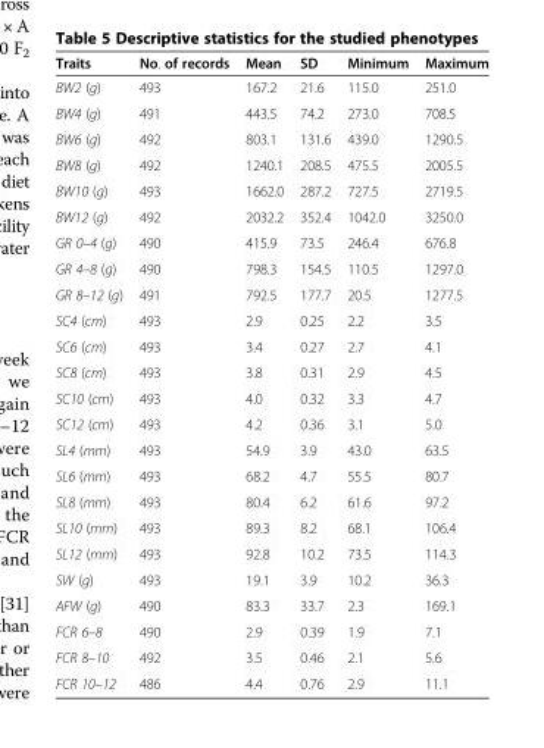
<table><thead><tr><td>Traits</td><td>No. of records</td><td>Mean</td><td>SD</td><td>Minimum</td><td>Maximum</td></tr></thead><tbody><tr><td>BW2 (g)</td><td>493</td><td>167.2</td><td>21.6</td><td>115.0</td><td>251.0</td></tr><tr><td>BW4 (g)</td><td>491</td><td>443.5</td><td>74.2</td><td>273.0</td><td>708.5</td></tr><tr><td>BW6 (g)</td><td>492</td><td>803.1</td><td>131.6</td><td>439.0</td><td>1290.5</td></tr><tr><td>BW8 (g)</td><td>492</td><td>1240.1</td><td>208.5</td><td>475.5</td><td>2005.5</td></tr><tr><td>BW10 (g)</td><td>493</td><td>1662.0</td><td>287.2</td><td>727.5</td><td>2719.5</td></tr><tr><td>BW12 (g)</td><td>492</td><td>2032.2</td><td>352.4</td><td>1042.0</td><td>3250.0</td></tr><tr><td>GR 0–4 (g)</td><td>490</td><td>415.9</td><td>73.5</td><td>246.4</td><td>676.8</td></tr><tr><td>GR 4–8 (g)</td><td>490</td><td>798.3</td><td>154.5</td><td>110.5</td><td>1297.0</td></tr><tr><td>GR 8–12 (g)</td><td>491</td><td>792.5</td><td>177.7</td><td>20.5</td><td>1277.5</td></tr><tr><td>SC4 (cm)</td><td>493</td><td>2.9</td><td>0.25</td><td>2.2</td><td>3.5</td></tr><tr><td>SC6 (cm)</td><td>493</td><td>3.4</td><td>0.27</td><td>2.7</td><td>4.1</td></tr><tr><td>SC8 (cm)</td><td>493</td><td>3.8</td><td>0.31</td><td>2.9</td><td>4.5</td></tr><tr><td>SC10 (cm)</td><td>493</td><td>4.0</td><td>0.32</td><td>3.3</td><td>4.7</td></tr><tr><td>SC12 (cm)</td><td>493</td><td>4.2</td><td>0.36</td><td>3.1</td><td>5.0</td></tr><tr><td>SL4 (mm)</td><td>493</td><td>54.9</td><td>3.9</td><td>43.0</td><td>63.5</td></tr><tr><td>SL6 (mm)</td><td>493</td><td>68.2</td><td>4.7</td><td>55.5</td><td>80.7</td></tr><tr><td>SL8 (mm)</td><td>493</td><td>80.4</td><td>6.2</td><td>61.6</td><td>97.2</td></tr><tr><td>SL10 (mm)</td><td>493</td><td>89.3</td><td>8.2</td><td>68.1</td><td>106.4</td></tr><tr><td>SL12 (mm)</td><td>493</td><td>92.8</td><td>10.2</td><td>73.5</td><td>114.3</td></tr><tr><td>SW (g)</td><td>493</td><td>19.1</td><td>3.9</td><td>10.2</td><td>36.3</td></tr><tr><td>AFW (g)</td><td>490</td><td>83.3</td><td>33.7</td><td>2.3</td><td>169.1</td></tr><tr><td>FCR 6–8</td><td>490</td><td>2.9</td><td>0.39</td><td>1.9</td><td>7.1</td></tr><tr><td>FCR 8–10</td><td>492</td><td>3.5</td><td>0.46</td><td>2.1</td><td>5.6</td></tr><tr><td>FCR 10–12</td><td>486</td><td>4.4</td><td>0.76</td><td>2.9</td><td>11.1</td></tr></tbody></table>